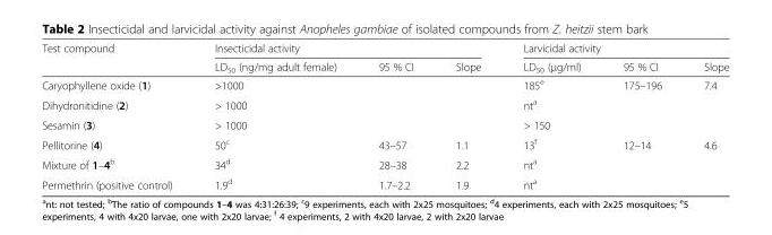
<table><thead><tr><td rowspan="2">Test compound</td><td colspan="3">Insecticidal activity</td><td colspan="3">Larvicidal activity</td></tr><tr><td>LD<sub>50</sub> (ng/mg adult female)</td><td>95 % CI</td><td>Slope</td><td>LD<sub>50</sub> (μg/ml)</td><td>95 % CI</td><td>Slope</td></tr></thead><tbody><tr><td>Caryophyllene oxide (1)</td><td>&gt;1000</td><td></td><td></td><td>185<sup>e</sup></td><td>175–196</td><td>7.4</td></tr><tr><td>Dihydronitidine (2)</td><td>&gt; 1000</td><td></td><td></td><td>nt<sup>a</sup></td><td></td><td></td></tr><tr><td>Sesamin (3)</td><td>&gt; 1000</td><td></td><td></td><td>&gt; 150</td><td></td><td></td></tr><tr><td>Pellitorine (4)</td><td>50<sup>c</sup></td><td>43–57</td><td>1.1</td><td>13<sup>f</sup></td><td>12–14</td><td>4.6</td></tr><tr><td>Mixture of 1–4<sup>b</sup></td><td>34<sup>d</sup></td><td>28–38</td><td>2.2</td><td>nt<sup>a</sup></td><td></td><td></td></tr><tr><td>Permethrin (positive control)</td><td>1.9<sup>d</sup></td><td>1.7–2.2</td><td>1.9</td><td>nt<sup>a</sup></td><td></td><td></td></tr></tbody></table>